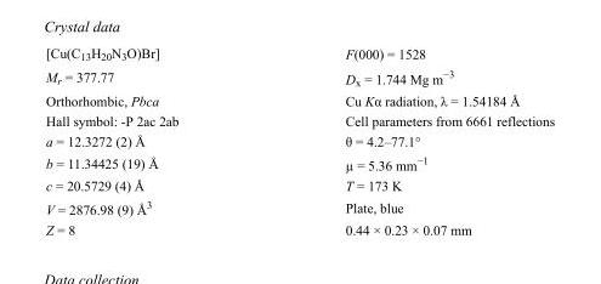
<table><tbody><tr><td>[Cu(C<sub>13</sub>H<sub>20</sub>N<sub>3</sub>O)Br]</td><td>F(000) = 1528</td></tr><tr><td>M<sub>r</sub> = 377.77</td><td>D<sub>x</sub> = 1.744 Mg m<sup>−3</sup></td></tr><tr><td>Orthorhombic, Pbca</td><td>Cu Kα radiation, λ = 1.54184 Å</td></tr><tr><td>Hall symbol: -P 2ac 2ab</td><td>Cell parameters from 6661 reflections</td></tr><tr><td>a = 12.3272 (2) Å</td><td>θ = 4.2–77.1°</td></tr><tr><td>b = 11.34425 (19) Å</td><td>µ = 5.36 mm<sup>−1</sup></td></tr><tr><td>c = 20.5729 (4) Å</td><td>T = 173 K</td></tr><tr><td>V = 2876.98 (9) Å<sup>3</sup></td><td>Plate, blue</td></tr><tr><td>Z = 8</td><td>0.44 × 0.23 × 0.07 mm</td></tr></tbody></table>